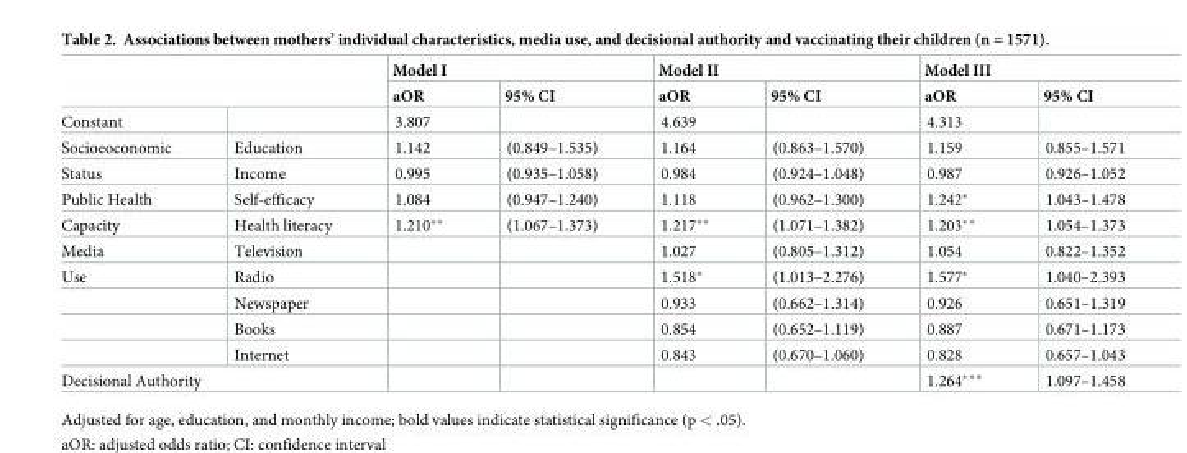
<table><thead><tr><td rowspan="2"></td><td rowspan="2"></td><td colspan="2">Model I</td><td colspan="2">Model II</td><td colspan="2">Model III</td></tr><tr><td>aOR</td><td>95% CI</td><td>aOR</td><td>95% CI</td><td>aOR</td><td>95% CI</td></tr></thead><tbody><tr><td>Constant</td><td></td><td>3.807</td><td></td><td>4.639</td><td></td><td>4.313</td><td></td></tr><tr><td>Socioeoconomic</td><td>Education</td><td>1.142</td><td>(0.849–1.535)</td><td>1.164</td><td>(0.863–1.570)</td><td>1.159</td><td>0.855–1.571</td></tr><tr><td>Status</td><td>Income</td><td>0.995</td><td>(0.935–1.058)</td><td>0.984</td><td>(0.924–1.048)</td><td>0.987</td><td>0.926–1.052</td></tr><tr><td>Public Health</td><td>Self-efficacy</td><td>1.084</td><td>(0.947–1.240)</td><td>1.118</td><td>(0.962–1.300)</td><td>1.242*</td><td>1.043–1.478</td></tr><tr><td>Capacity</td><td>Health literacy</td><td>1.210**</td><td>(1.067–1.373)</td><td>1.217**</td><td>(1.071–1.382)</td><td>1.203**</td><td>1.054–1.373</td></tr><tr><td>Media</td><td>Television</td><td></td><td></td><td>1.027</td><td>(0.805–1.312)</td><td>1.054</td><td>0.822–1.352</td></tr><tr><td rowspan="4">Use</td><td>Radio</td><td></td><td></td><td>1.518*</td><td>(1.013–2.276)</td><td>1.577*</td><td>1.040–2.393</td></tr><tr><td>Newspaper</td><td></td><td></td><td>0.933</td><td>(0.662–1.314)</td><td>0.926</td><td>0.651–1.319</td></tr><tr><td>Books</td><td></td><td></td><td>0.854</td><td>(0.652–1.119)</td><td>0.887</td><td>0.671–1.173</td></tr><tr><td>Internet</td><td></td><td></td><td>0.843</td><td>(0.670–1.060)</td><td>0.828</td><td>0.657–1.043</td></tr><tr><td colspan="2">Decisional Authority</td><td></td><td></td><td></td><td></td><td>1.264***</td><td>1.097–1.458</td></tr></tbody></table>